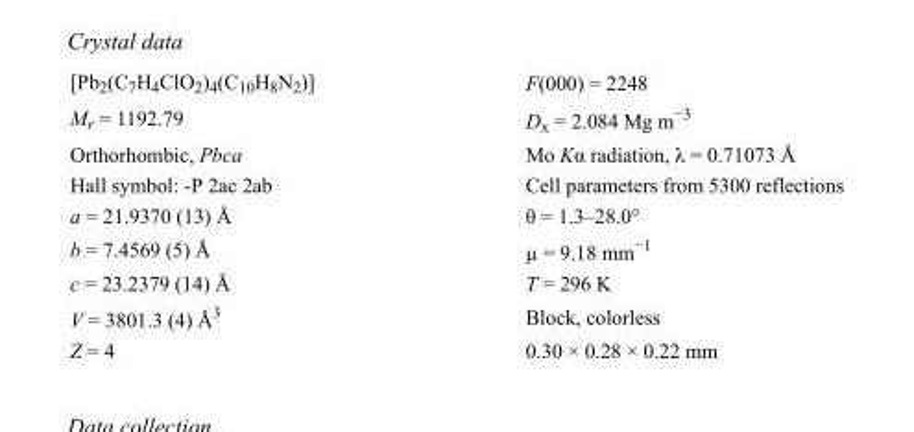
<table><tbody><tr><td>[Pb<sub>2</sub>(C<sub>7</sub>H<sub>4</sub>ClO<sub>2</sub>)<sub>4</sub>(C<sub>10</sub>H<sub>8</sub>N<sub>2</sub>)]</td><td>F(000) = 2248</td></tr><tr><td>M<sub>r</sub> = 1192.79</td><td>D<sub>x</sub> = 2.084 Mg m<sup>−3</sup></td></tr><tr><td>Orthorhombic, Pbca</td><td>Mo Kα radiation, λ = 0.71073 Å</td></tr><tr><td>Hall symbol: -P 2ac 2ab</td><td>Cell parameters from 5300 reflections</td></tr><tr><td>a = 21.9370 (13) Å</td><td>θ = 1.3–28.0°</td></tr><tr><td>b = 7.4569 (5) Å</td><td>µ = 9.18 mm<sup>−1</sup></td></tr><tr><td>c = 23.2379 (14) Å</td><td>T = 296 K</td></tr><tr><td>V = 3801.3 (4) Å<sup>3</sup></td><td>Block, colorless</td></tr><tr><td>Z = 4</td><td>0.30 × 0.28 × 0.22 mm</td></tr></tbody></table>